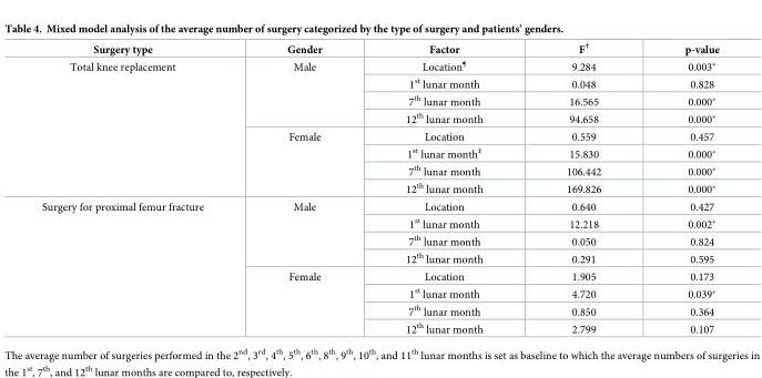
<table><thead><tr><td>Surgery type</td><td>Gender</td><td>Factor</td><td>F<sup>†</sup></td><td>p-value</td></tr></thead><tbody><tr><td rowspan="8">Total knee replacement</td><td rowspan="4">Male</td><td>Location<sup>¶</sup></td><td>9.284</td><td>0.003*</td></tr><tr><td>1<sup>st</sup> lunar month</td><td>0.048</td><td>0.828</td></tr><tr><td>7<sup>th</sup> lunar month</td><td>16.565</td><td>0.000*</td></tr><tr><td>12<sup>th</sup> lunar month</td><td>94.658</td><td>0.000*</td></tr><tr><td rowspan="4">Female</td><td>Location</td><td>0.559</td><td>0.457</td></tr><tr><td>1<sup>st</sup> lunar month<sup>‡</sup></td><td>15.830</td><td>0.000*</td></tr><tr><td>7<sup>th</sup> lunar month</td><td>106.442</td><td>0.000*</td></tr><tr><td>12<sup>th</sup> lunar month</td><td>169.826</td><td>0.000*</td></tr><tr><td rowspan="8">Surgery for proximal femur fracture</td><td rowspan="4">Male</td><td>Location</td><td>0.640</td><td>0.427</td></tr><tr><td>1<sup>st</sup> lunar month</td><td>12.218</td><td>0.002*</td></tr><tr><td>7<sup>th</sup> lunar month</td><td>0.050</td><td>0.824</td></tr><tr><td>12<sup>th</sup> lunar month</td><td>0.291</td><td>0.595</td></tr><tr><td rowspan="4">Female</td><td>Location</td><td>1.905</td><td>0.173</td></tr><tr><td>1<sup>st</sup> lunar month</td><td>4.720</td><td>0.039*</td></tr><tr><td>7<sup>th</sup> lunar month</td><td>0.850</td><td>0.364</td></tr><tr><td>12<sup>th</sup> lunar month</td><td>2.799</td><td>0.107</td></tr></tbody></table>